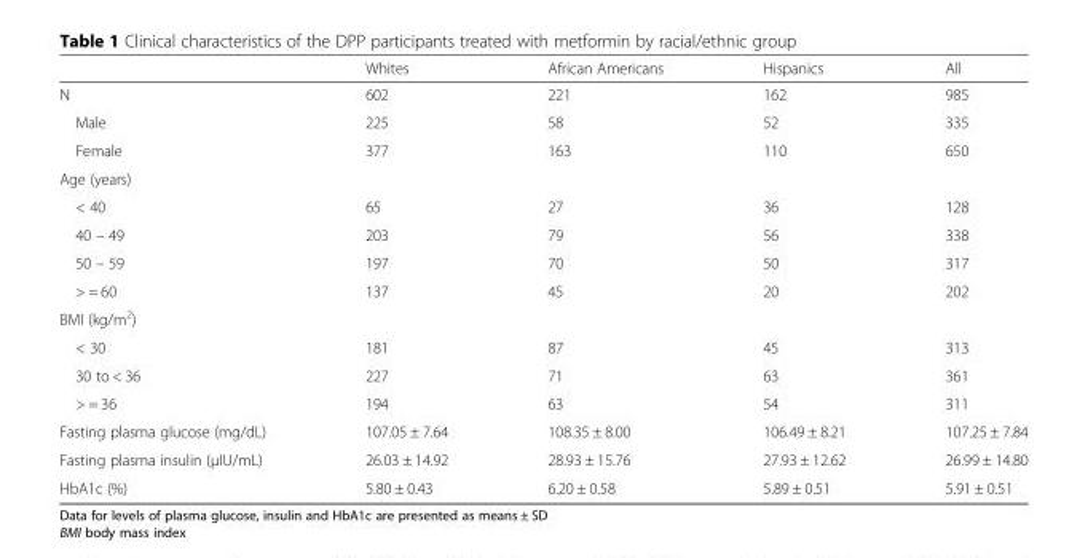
<table><thead><tr><td></td><td>Whites</td><td>African Americans</td><td>Hispanics</td><td>All</td></tr></thead><tbody><tr><td>N</td><td>602</td><td>221</td><td>162</td><td>985</td></tr><tr><td>Male</td><td>225</td><td>58</td><td>52</td><td>335</td></tr><tr><td>Female</td><td>377</td><td>163</td><td>110</td><td>650</td></tr><tr><td colspan="5">Age (years)</td></tr><tr><td>&lt; 40</td><td>65</td><td>27</td><td>36</td><td>128</td></tr><tr><td>40 – 49</td><td>203</td><td>79</td><td>56</td><td>338</td></tr><tr><td>50 – 59</td><td>197</td><td>70</td><td>50</td><td>317</td></tr><tr><td>&gt; = 60</td><td>137</td><td>45</td><td>20</td><td>202</td></tr><tr><td colspan="5">BMI (kg/m<sup>2</sup>)</td></tr><tr><td>&lt; 30</td><td>181</td><td>87</td><td>45</td><td>313</td></tr><tr><td>30 to &lt; 36</td><td>227</td><td>71</td><td>63</td><td>361</td></tr><tr><td>&gt; = 36</td><td>194</td><td>63</td><td>54</td><td>311</td></tr><tr><td>Fasting plasma glucose (mg/dL)</td><td>107.05 ± 7.64</td><td>108.35 ± 8.00</td><td>106.49 ± 8.21</td><td>107.25 ± 7.84</td></tr><tr><td>Fasting plasma insulin (μIU/mL)</td><td>26.03 ± 14.92</td><td>28.93 ± 15.76</td><td>27.93 ± 12.62</td><td>26.99 ± 14.80</td></tr><tr><td>HbA1c (%)</td><td>5.80 ± 0.43</td><td>6.20 ± 0.58</td><td>5.89 ± 0.51</td><td>5.91 ± 0.51</td></tr></tbody></table>